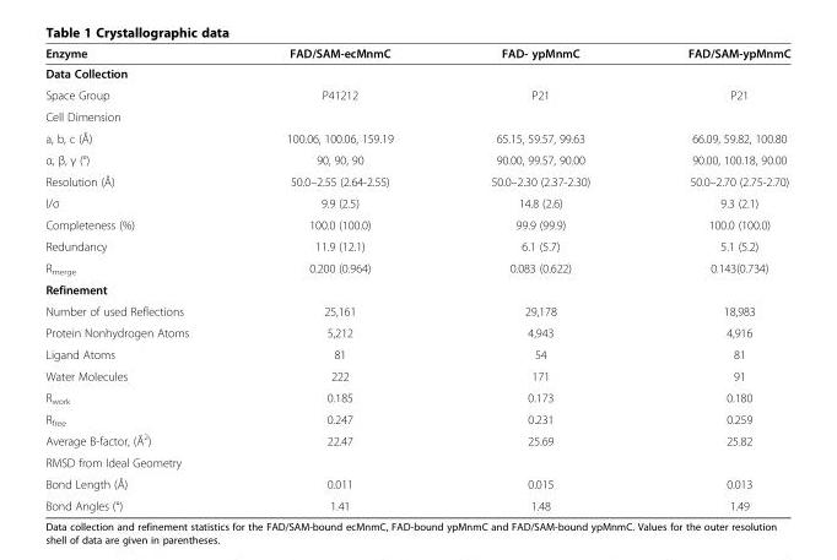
<table><thead><tr><td>Enzyme</td><td>FAD/SAM-ecMnmC</td><td>FAD- ypMnmC</td><td>FAD/SAM-ypMnmC</td></tr></thead><tbody><tr><td colspan="4">Data Collection</td></tr><tr><td>Space Group</td><td>P41212</td><td>P21</td><td>P21</td></tr><tr><td colspan="4">Cell Dimension</td></tr><tr><td>a, b, c (Å)</td><td>100.06, 100.06, 159.19</td><td>65.15, 59.57, 99.63</td><td>66.09, 59.82, 100.80</td></tr><tr><td>α, β, γ (°)</td><td>90, 90, 90</td><td>90.00, 99.57, 90.00</td><td>90.00, 100.18, 90.00</td></tr><tr><td>Resolution (Å)</td><td>50.0–2.55 (2.64-2.55)</td><td>50.0–2.30 (2.37-2.30)</td><td>50.0–2.70 (2.75-2.70)</td></tr><tr><td>I/σ</td><td>9.9 (2.5)</td><td>14.8 (2.6)</td><td>9.3 (2.1)</td></tr><tr><td>Completeness (%)</td><td>100.0 (100.0)</td><td>99.9 (99.9)</td><td>100.0 (100.0)</td></tr><tr><td>Redundancy</td><td>11.9 (12.1)</td><td>6.1 (5.7)</td><td>5.1 (5.2)</td></tr><tr><td>R<sub>merge</sub></td><td>0.200 (0.964)</td><td>0.083 (0.622)</td><td>0.143(0.734)</td></tr><tr><td colspan="4">Refinement</td></tr><tr><td>Number of used Reflections</td><td>25,161</td><td>29,178</td><td>18,983</td></tr><tr><td>Protein Nonhydrogen Atoms</td><td>5,212</td><td>4,943</td><td>4,916</td></tr><tr><td>Ligand Atoms</td><td>81</td><td>54</td><td>81</td></tr><tr><td>Water Molecules</td><td>222</td><td>171</td><td>91</td></tr><tr><td>R<sub>work</sub></td><td>0.185</td><td>0.173</td><td>0.180</td></tr><tr><td>R<sub>free</sub></td><td>0.247</td><td>0.231</td><td>0.259</td></tr><tr><td>Average B-factor, (Å<sup>2</sup>)</td><td>22.47</td><td>25.69</td><td>25.82</td></tr><tr><td colspan="4">RMSD from Ideal Geometry</td></tr><tr><td>Bond Length (Å)</td><td>0.011</td><td>0.015</td><td>0.013</td></tr><tr><td>Bond Angles (°)</td><td>1.41</td><td>1.48</td><td>1.49</td></tr></tbody></table>